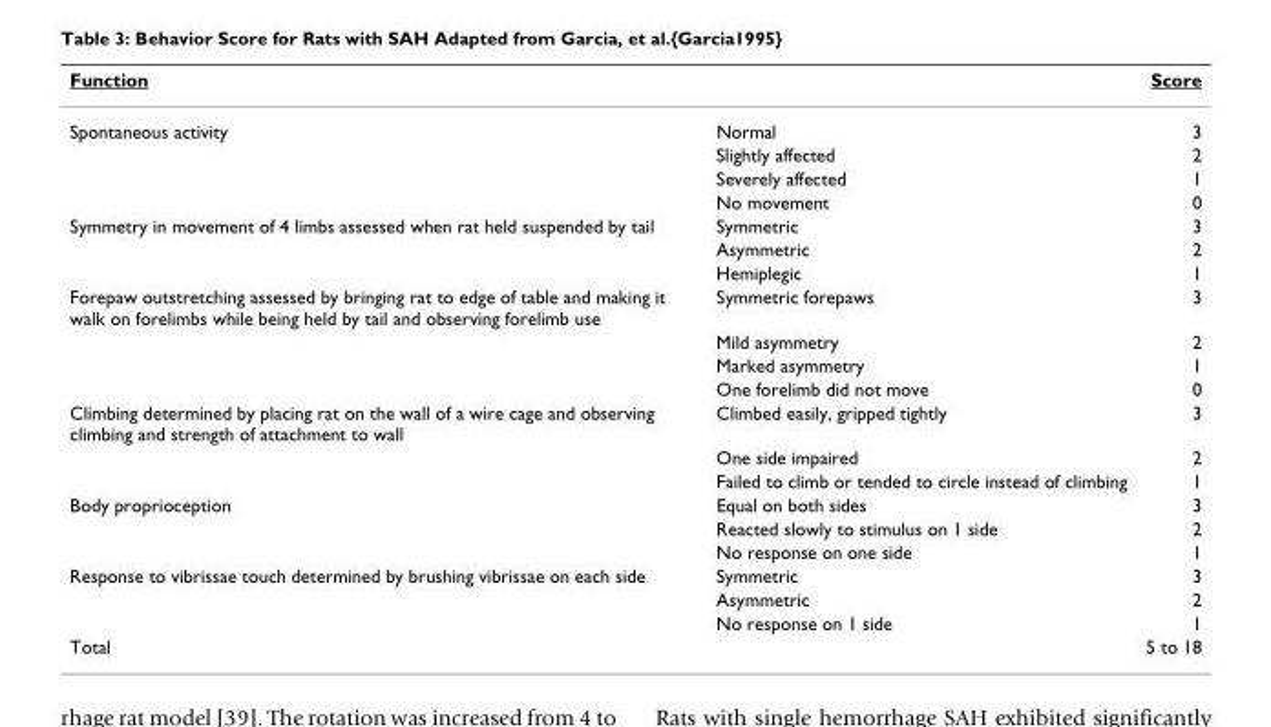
<table><thead><tr><td>Function</td><td></td><td>Score</td></tr></thead><tbody><tr><td rowspan="4">Spontaneous activity</td><td>Normal</td><td>3</td></tr><tr><td>Slightly affected</td><td>2</td></tr><tr><td>Severely affected</td><td>1</td></tr><tr><td>No movement</td><td>0</td></tr><tr><td rowspan="3">Symmetry in movement of 4 limbs assessed when rat held suspended by tail</td><td>Symmetric</td><td>3</td></tr><tr><td>Asymmetric</td><td>2</td></tr><tr><td>Hemiplegic</td><td>1</td></tr><tr><td rowspan="4">Forepaw outstretching assessed by bringing rat to edge of table and making it walk on forelimbs while being held by tail and observing forelimb use</td><td>Symmetric forepaws</td><td>3</td></tr><tr><td>Mild asymmetry</td><td>2</td></tr><tr><td>Marked asymmetry</td><td>1</td></tr><tr><td>One forelimb did not move</td><td>0</td></tr><tr><td rowspan="3">Climbing determined by placing rat on the wall of a wire cage and observing climbing and strength of attachment to wall</td><td>Climbed easily, gripped tightly</td><td>3</td></tr><tr><td>One side impaired</td><td>2</td></tr><tr><td>Failed to climb or tended to circle instead of climbing</td><td>1</td></tr><tr><td rowspan="3">Body proprioception</td><td>Equal on both sides</td><td>3</td></tr><tr><td>Reacted slowly to stimulus on 1 side</td><td>2</td></tr><tr><td>No response on one side</td><td>1</td></tr><tr><td rowspan="3">Response to vibrissae touch determined by brushing vibrissae on each side</td><td>Symmetric</td><td>3</td></tr><tr><td>Asymmetric</td><td>2</td></tr><tr><td>No response on 1 side</td><td>1</td></tr><tr><td>Total</td><td></td><td>5 to 18</td></tr></tbody></table>